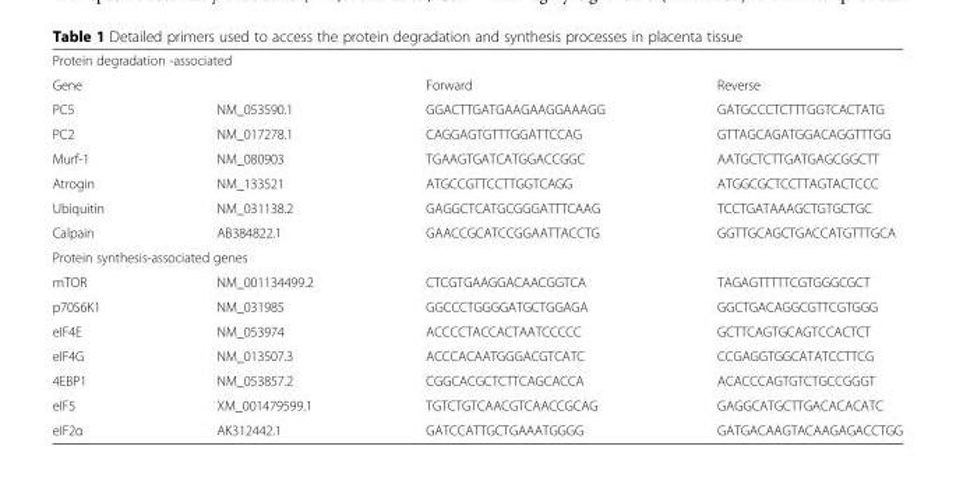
<table><tbody><tr><td colspan="4">Protein degradation -associated</td></tr><tr><td colspan="2">Gene</td><td>Forward</td><td>Reverse</td></tr><tr><td>PC5</td><td>NM_053590.1</td><td>GGACTTGATGAAGAAGGAAAGG</td><td>GATGCCCTCTTTGGTCACTATG</td></tr><tr><td>PC2</td><td>NM_017278.1</td><td>CAGGAGTGTTTGGATTCCAG</td><td>GTTAGCAGATGGACAGGTTTGG</td></tr><tr><td>Murf-1</td><td>NM_080903</td><td>TGAAGTGATCATGGACCGGC</td><td>AATGCTCTTGATGAGCGGCTT</td></tr><tr><td>Atrogin</td><td>NM_133521</td><td>ATGCCGTTCCTTGGTCAGG</td><td>ATGGCGCTCCTTAGTACTCCC</td></tr><tr><td>Ubiquitin</td><td>NM_031138.2</td><td>GAGGCTCATGCGGGATTTCAAG</td><td>TCCTGATAAAGCTGTGCTGC</td></tr><tr><td>Calpain</td><td>AB384822.1</td><td>GAACCGCATCCGGAATTACCTG</td><td>GGTTGCAGCTGACCATGTTTGCA</td></tr><tr><td colspan="4">Protein synthesis-associated genes</td></tr><tr><td>mTOR</td><td>NM_001134499.2</td><td>CTCGTGAAGGACAACGGTCA</td><td>TAGAGTTTTTCGTGGGCGCT</td></tr><tr><td>p70S6K1</td><td>NM_031985</td><td>GGCCCTGGGGATGCTGGAGA</td><td>GGCTGACAGGCGTTCGTGGG</td></tr><tr><td>eIF4E</td><td>NM_053974</td><td>ACCCCTACCACTAATCCCCC</td><td>GCTTCAGTGCAGTCCACTCT</td></tr><tr><td>eIF4G</td><td>NM_013507.3</td><td>ACCCACAATGGGACGTCATC</td><td>CCGAGGTGGCATATCCTTCG</td></tr><tr><td>4EBP1</td><td>NM_053857.2</td><td>CGGCACGCTCTTCAGCACCA</td><td>ACACCCAGTGTCTGCCGGGT</td></tr><tr><td>eIF5</td><td>XM_001479599.1</td><td>TGTCTGTCAACGTCAACCGCAG</td><td>GAGGCATGCTTGACACACATC</td></tr><tr><td>eIF2α</td><td>AK312442.1</td><td>GATCCATTGCTGAAATGGGG</td><td>GATGACAAGTACAAGAGACCTGG</td></tr></tbody></table>